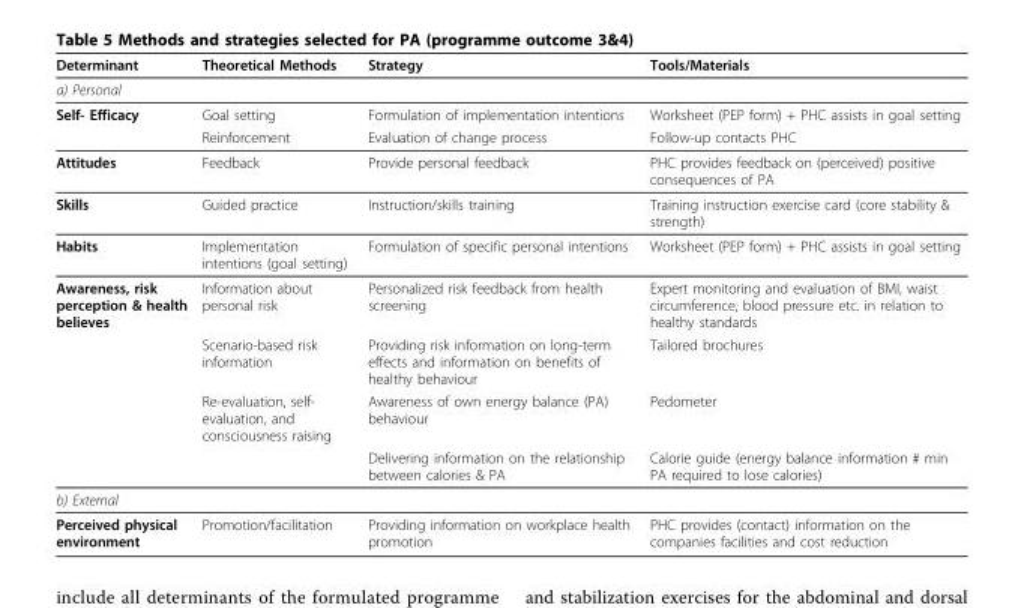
<table><thead><tr><td>Determinant</td><td>Theoretical Methods</td><td>Strategy</td><td>Tools/Materials</td></tr></thead><tbody><tr><td colspan="4">a) Personal</td></tr><tr><td rowspan="2">Self- Efficacy</td><td>Goal setting</td><td>Formulation of implementation intentions</td><td>Worksheet (PEP form) + PHC assists in goal setting</td></tr><tr><td>Reinforcement</td><td>Evaluation of change process</td><td>Follow-up contacts PHC</td></tr><tr><td>Attitudes</td><td>Feedback</td><td>Provide personal feedback</td><td>PHC provides feedback on (perceived) positive consequences of PA</td></tr><tr><td>Skills</td><td>Guided practice</td><td>Instruction/skills training</td><td>Training instruction exercise card (core stability &amp; strength)</td></tr><tr><td>Habits</td><td>Implementation intentions (goal setting)</td><td>Formulation of specific personal intentions</td><td>Worksheet (PEP form) + PHC assists in goal setting</td></tr><tr><td rowspan="4">Awareness, risk perception &amp; health believes</td><td>Information about personal risk</td><td>Personalized risk feedback from health screening</td><td>Expert monitoring and evaluation of BMI, waist circumference, blood pressure etc. in relation to healthy standards</td></tr><tr><td>Scenario-based risk information</td><td>Providing risk information on long-term effects and information on benefits of healthy behaviour</td><td>Tailored brochures</td></tr><tr><td>Re-evaluation, self- evaluation, and consciousness raising</td><td>Awareness of own energy balance (PA) behaviour</td><td>Pedometer</td></tr><tr><td></td><td>Delivering information on the relationship between calories &amp; PA</td><td>Calorie guide (energy balance information # min PA required to lose calories)</td></tr><tr><td colspan="4">b) External</td></tr><tr><td>Perceived physical environment</td><td>Promotion/facilitation</td><td>Providing information on workplace health promotion</td><td>PHC provides (contact) information on the companies facilities and cost reduction</td></tr></tbody></table>